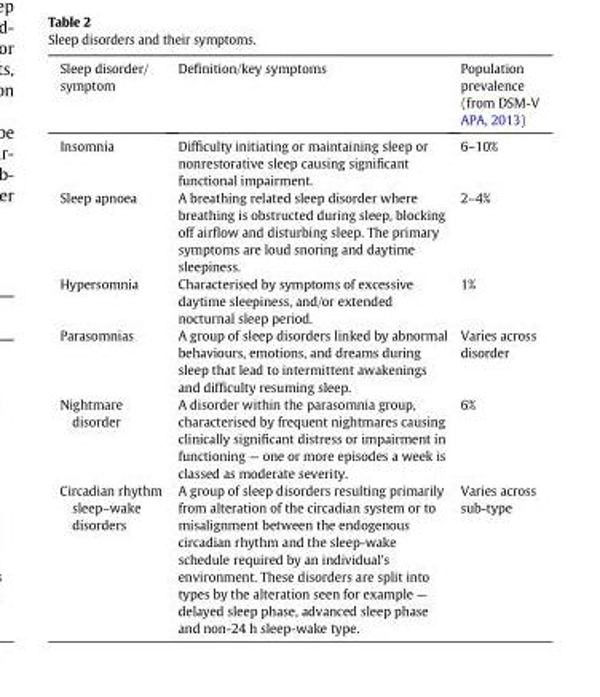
<table><thead><tr><td>Sleep disorder/ symptom</td><td>Definition/key symptoms</td><td>Population prevalence (from DSM-V APA, 2013)</td></tr></thead><tbody><tr><td>Insomnia</td><td>Difficulty initiating or maintaining sleep or nonrestorative sleep causing significant functional impairment.</td><td>6–10%</td></tr><tr><td>Sleep apnoea</td><td>A breathing related sleep disorder where breathing is obstructed during sleep, blocking off airflow and disturbing sleep. The primary symptoms are loud snoring and daytime sleepiness.</td><td>2–4%</td></tr><tr><td>Hypersomnia</td><td>Characterised by symptoms of excessive daytime sleepiness, and/or extended nocturnal sleep period.</td><td>1%</td></tr><tr><td>Parasomnias</td><td>A group of sleep disorders linked by abnormal behaviours, emotions, and dreams during sleep that lead to intermittent awakenings and difficulty resuming sleep.</td><td>Varies across disorder</td></tr><tr><td>Nightmare disorder</td><td>A disorder within the parasomnia group, characterised by frequent nightmares causing clinically significant distress or impairment in functioning — one or more episodes a week is classed as moderate severity.</td><td>6%</td></tr><tr><td>Circadian rhythm sleep–wake disorders</td><td>A group of sleep disorders resulting primarily from alteration of the circadian system or to misalignment between the endogenous circadian rhythm and the sleep-wake schedule required by an individual&#x27;s environment. These disorders are split into types by the alteration seen for example — delayed sleep phase, advanced sleep phase and non-24 h sleep-wake type.</td><td>Varies across sub-type</td></tr></tbody></table>